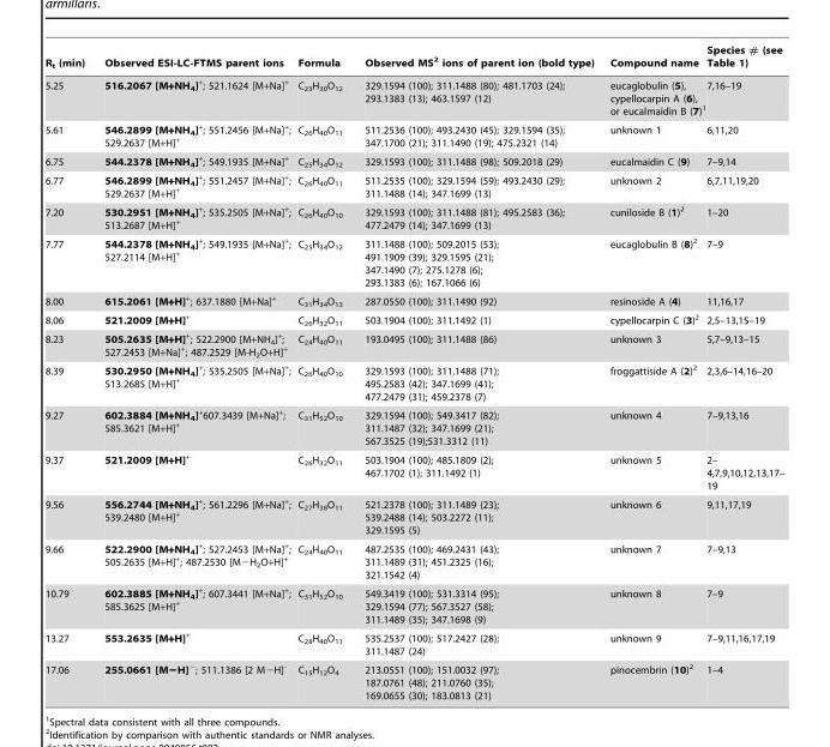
<table><thead><tr><td>R<sub>t</sub> (min)</td><td>Observed ESI-LC-FTMS parent ions</td><td>Formula</td><td>Observed MS<sup>2</sup> ions of parent ion (bold type)</td><td>Compound name</td><td>Species # (see Table 1)</td></tr></thead><tbody><tr><td>5.25</td><td>516.2067 [M+NH<sub>4</sub>]<sup>+</sup>; 521.1624 [M+Na]<sup>+</sup></td><td>C<sub>23</sub>H<sub>30</sub>O<sub>12</sub></td><td>329.1594 (100); 311.1488 (80); 481.1703 (24); 293.1383 (13); 463.1597 (12)</td><td>eucaglobulin (5), cypellocarpin A (6), or eucalmaidin B (7)<sup>1</sup></td><td>7,16–19</td></tr><tr><td>5.61</td><td>546.2899 [M+NH<sub>4</sub>]<sup>+</sup>; 551.2456 [M+Na]<sup>+</sup>; 529.2637 [M+H]<sup>+</sup></td><td>C<sub>26</sub>H<sub>40</sub>O<sub>11</sub></td><td>511.2536 (100); 493.2430 (45); 329.1594 (35); 347.1700 (21); 311.1490 (19); 475.2321 (14)</td><td>unknown 1</td><td>6,11,20</td></tr><tr><td>6.75</td><td>544.2378 [M+NH<sub>4</sub>]<sup>+</sup>; 549.1935 [M+Na]<sup>+</sup></td><td>C<sub>25</sub>H<sub>34</sub>O<sub>12</sub></td><td>329.1593 (100); 311.1488 (98); 509.2018 (29)</td><td>eucalmaidin C (9)</td><td>7–9,14</td></tr><tr><td>6.77</td><td>546.2899 [M+NH<sub>4</sub>]<sup>+</sup>; 551.2457 [M+Na]<sup>+</sup>; 529.2637 [M+H]<sup>+</sup></td><td>C<sub>26</sub>H<sub>40</sub>O<sub>11</sub></td><td>511.2535 (100); 329.1594 (59); 493.2430 (29); 311.1488 (14); 347.1699 (13)</td><td>unknown 2</td><td>6,7,11,19,20</td></tr><tr><td>7.20</td><td>530.2951 [M+NH<sub>4</sub>]<sup>+</sup>; 535.2505 [M+Na]<sup>+</sup>; 513.2687 [M+H]<sup>+</sup></td><td>C<sub>26</sub>H<sub>40</sub>O<sub>10</sub></td><td>329.1593 (100); 311.1488 (81); 495.2583 (36); 477.2479 (14); 347.1699 (13)</td><td>cuniloside B (1)<sup>2</sup></td><td>1–20</td></tr><tr><td>7.77</td><td>544.2378 [M+NH<sub>4</sub>]<sup>+</sup>; 549.1935 [M+Na]<sup>+</sup>; 527.2114 [M+H]<sup>+</sup></td><td>C<sub>25</sub>H<sub>34</sub>O<sub>12</sub></td><td>311.1488 (100); 509.2015 (53); 491.1909 (39); 329.1595 (21); 347.1490 (7); 275.1278 (6); 293.1383 (6); 167.1066 (6)</td><td>eucaglobulin B (8)<sup>2</sup></td><td>7–9</td></tr><tr><td>8.00</td><td>615.2061 [M+H]<sup>+</sup>; 637.1880 [M+Na]<sup>+</sup></td><td>C<sub>31</sub>H<sub>34</sub>O<sub>13</sub></td><td>287.0550 (100); 311.1490 (92)</td><td>resinoside A (4)</td><td>11,16,17</td></tr><tr><td>8.06</td><td>521.2009 [M+H]<sup>+</sup></td><td>C<sub>26</sub>H<sub>32</sub>O<sub>11</sub></td><td>503.1904 (100); 311.1492 (1)</td><td>cypellocarpin C (3)<sup>2</sup></td><td>2,5–13,15–19</td></tr><tr><td>8.23</td><td>505.2635 [M+H]<sup>+</sup>; 522.2900 [M+NH<sub>4</sub>]<sup>+</sup>; 527.2453 [M+Na]<sup>+</sup>; 487.2529 [M-H<sub>2</sub>O+H]<sup>+</sup></td><td>C<sub>24</sub>H<sub>40</sub>O<sub>11</sub></td><td>193.0495 (100); 311.1488 (86)</td><td>unknown 3</td><td>5,7–9,13–15</td></tr><tr><td>8.39</td><td>530.2950 [M+NH<sub>4</sub>]<sup>+</sup>; 535.2505 [M+Na]<sup>+</sup>; 513.2685 [M+H]<sup>+</sup></td><td>C<sub>26</sub>H<sub>40</sub>O<sub>10</sub></td><td>329.1593 (100); 311.1488 (71); 495.2583 (42); 347.1699 (41); 477.2479 (31); 459.2378 (7)</td><td>froggattiside A (2)<sup>2</sup></td><td>2,3,6–14,16–20</td></tr><tr><td>9.27</td><td>602.3884 [M+NH<sub>4</sub>]<sup>+</sup>607.3439 [M+Na]<sup>+</sup>; 585.3621 [M+H]<sup>+</sup></td><td>C<sub>31</sub>H<sub>52</sub>O<sub>10</sub></td><td>329.1594 (100); 549.3417 (82); 311.1487 (32); 347.1699 (21); 567.3525 (19);531.3312 (11)</td><td>unknown 4</td><td>7–9,13,16</td></tr><tr><td>9.37</td><td>521.2009 [M+H]<sup>+</sup></td><td>C<sub>26</sub>H<sub>32</sub>O<sub>11</sub></td><td>503.1904 (100); 485.1809 (2); 467.1702 (1); 311.1492 (1)</td><td>unknown 5</td><td>2– 4,7,9,10,12,13,17– 19</td></tr><tr><td>9.56</td><td>556.2744 [M+NH<sub>4</sub>]<sup>+</sup>; 561.2296 [M+Na]<sup>+</sup>; 539.2480 [M+H]<sup>+</sup></td><td>C<sub>27</sub>H<sub>38</sub>O<sub>11</sub></td><td>521.2378 (100); 311.1489 (23); 539.2488 (14); 503.2272 (11); 329.1595 (5)</td><td>unknown 6</td><td>9,11,17,19</td></tr><tr><td>9.66</td><td>522.2900 [M+NH<sub>4</sub>]<sup>+</sup>; 527.2453 [M+Na]<sup>+</sup>; 505.2635 [M+H]<sup>+</sup>; 487.2530 [M−H<sub>2</sub>O+H]<sup>+</sup></td><td>C<sub>24</sub>H<sub>40</sub>O<sub>11</sub></td><td>487.2535 (100); 469.2431 (43); 311.1489 (31); 451.2325 (16); 321.1542 (4)</td><td>unknown 7</td><td>7–9,13</td></tr><tr><td>10.79</td><td>602.3885 [M+NH<sub>4</sub>]<sup>+</sup>; 607.3441 [M+Na]<sup>+</sup>; 585.3625 [M+H]<sup>+</sup></td><td>C<sub>31</sub>H<sub>52</sub>O<sub>10</sub></td><td>549.3419 (100); 531.3314 (95); 329.1594 (77); 567.3527 (58); 311.1489 (35); 347.1698 (9)</td><td>unknown 8</td><td>7–9</td></tr><tr><td>13.27</td><td>553.2635 [M+H]<sup>+</sup></td><td>C<sub>28</sub>H<sub>40</sub>O<sub>11</sub></td><td>535.2537 (100); 517.2427 (28); 311.1487 (24)</td><td>unknown 9</td><td>7–9,11,16,17,19</td></tr><tr><td>17.06</td><td>255.0661 [M−H]<sup>−</sup>; 511.1386 [2 M−H]<sup>-</sup></td><td>C<sub>15</sub>H<sub>12</sub>O<sub>4</sub></td><td>213.0551 (100); 151.0032 (97); 187.0761 (48); 211.0760 (35); 169.0655 (30); 183.0813 (21)</td><td>pinocembrin (10)<sup>2</sup></td><td>1–4</td></tr></tbody></table>